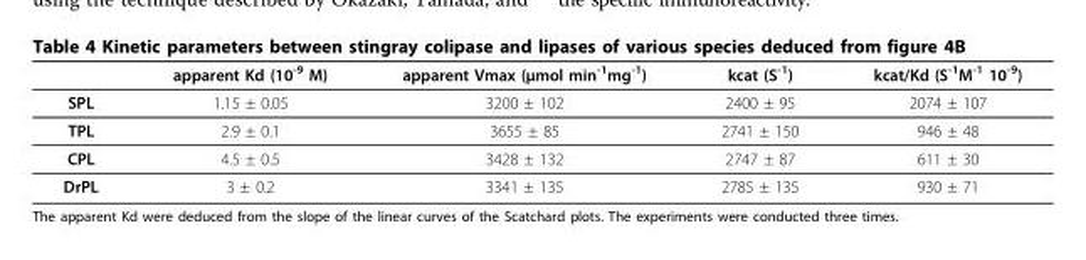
<table><thead><tr><td></td><td>apparent Kd (10<sup>-9</sup> M)</td><td>apparent Vmax (μmol min<sup>-1</sup>mg<sup>-1</sup>)</td><td>kcat (S<sup>-1</sup>)</td><td>kcat/Kd (S<sup>-1</sup>M<sup>-1</sup> 10<sup>-9</sup>)</td></tr></thead><tbody><tr><td>SPL</td><td>1.15 ± 0.05</td><td>3200 ± 102</td><td>2400 ± 95</td><td>2074 ± 107</td></tr><tr><td>TPL</td><td>2.9 ± 0.1</td><td>3655 ± 85</td><td>2741 ± 150</td><td>946 ± 48</td></tr><tr><td>CPL</td><td>4.5 ± 0.5</td><td>3428 ± 132</td><td>2747 ± 87</td><td>611 ± 30</td></tr><tr><td>DrPL</td><td>3 ± 0.2</td><td>3341 ± 135</td><td>2785 ± 135</td><td>930 ± 71</td></tr></tbody></table>